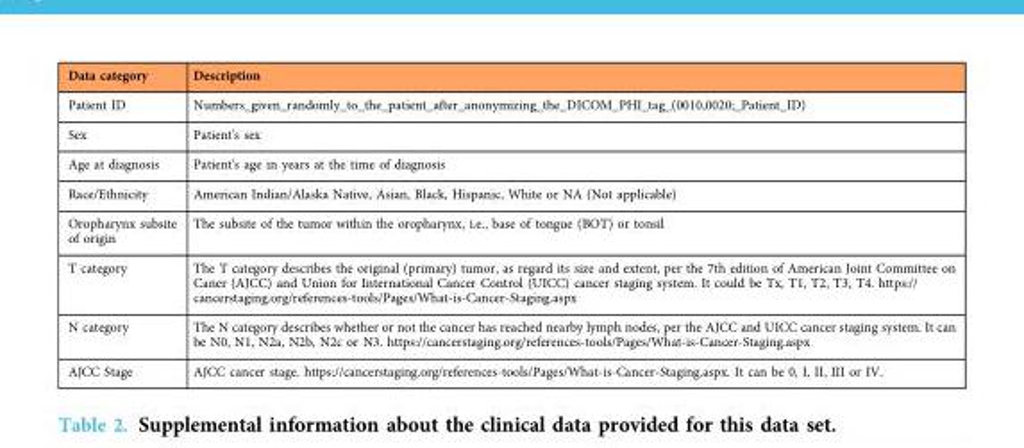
<table><thead><tr><td>Data category</td><td>Description</td></tr></thead><tbody><tr><td>Patient ID</td><td>Numbers_given_randomly_to_the_patient_after_anonymizing_the_DICOM_PHI_tag_(0010,0020;_Patient_ID)</td></tr><tr><td>Sex</td><td>Patient&#x27;s sex</td></tr><tr><td>Age at diagnosis</td><td>Patient&#x27;s age in years at the time of diagnosis</td></tr><tr><td>Race/Ethnicity</td><td>American Indian/Alaska Native, Asian, Black, Hispanic, White or NA (Not applicable)</td></tr><tr><td>Oropharynx subsite of origin</td><td>The subsite of the tumor within the oropharynx, i.e., base of tongue (BOT) or tonsil</td></tr><tr><td>T category</td><td>The T category describes the original (primary) tumor, as regard its size and extent, per the 7th edition of American Joint Committee on Caner (AJCC) and Union for International Cancer Control (UICC) cancer staging system. It could be Tx, T1, T2, T3, T4. https:// cancerstaging.org/references-tools/Pages/What-is-Cancer-Staging.aspx</td></tr><tr><td>N category</td><td>The N category describes whether or not the cancer has reached nearby lymph nodes, per the AJCC and UICC cancer staging system. It can be N0, N1, N2a, N2b, N2c or N3. https://cancerstaging.org/references-tools/Pages/What-is-Cancer-Staging.aspx</td></tr><tr><td>AJCC Stage</td><td>AJCC cancer stage. https://cancerstaging.org/references-tools/Pages/What-is-Cancer-Staging.aspx. It can be 0, I, II, III or IV.</td></tr></tbody></table>